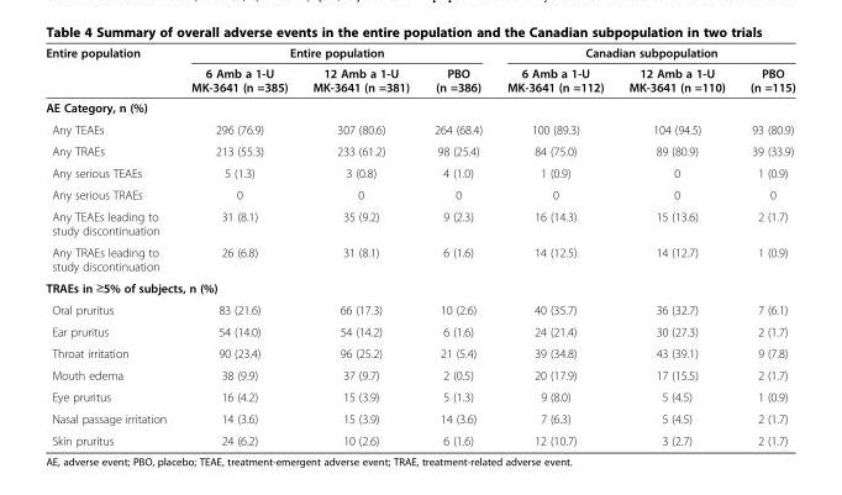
<table><thead><tr><td rowspan="2">Entire population</td><td colspan="3">Entire population</td><td colspan="3">Canadian subpopulation</td></tr><tr><td>6 Amb a 1-U MK-3641 (n =385)</td><td>12 Amb a 1-U MK-3641 (n =381)</td><td>PBO (n =386)</td><td>6 Amb a 1-U MK-3641 (n =112)</td><td>12 Amb a 1-U MK-3641 (n =110)</td><td>PBO (n =115)</td></tr></thead><tbody><tr><td colspan="7">AE Category, n (%)</td></tr><tr><td>Any TEAEs</td><td>296 (76.9)</td><td>307 (80.6)</td><td>264 (68.4)</td><td>100 (89.3)</td><td>104 (94.5)</td><td>93 (80.9)</td></tr><tr><td>Any TRAEs</td><td>213 (55.3)</td><td>233 (61.2)</td><td>98 (25.4)</td><td>84 (75.0)</td><td>89 (80.9)</td><td>39 (33.9)</td></tr><tr><td>Any serious TEAEs</td><td>5 (1.3)</td><td>3 (0.8)</td><td>4 (1.0)</td><td>1 (0.9)</td><td>0</td><td>1 (0.9)</td></tr><tr><td>Any serious TRAEs</td><td>0</td><td>0</td><td>0</td><td>0</td><td>0</td><td>0</td></tr><tr><td>Any TEAEs leading to study discontinuation</td><td>31 (8.1)</td><td>35 (9.2)</td><td>9 (2.3)</td><td>16 (14.3)</td><td>15 (13.6)</td><td>2 (1.7)</td></tr><tr><td>Any TRAEs leading to study discontinuation</td><td>26 (6.8)</td><td>31 (8.1)</td><td>6 (1.6)</td><td>14 (12.5)</td><td>14 (12.7)</td><td>1 (0.9)</td></tr><tr><td colspan="7">TRAEs in ≥5% of subjects, n (%)</td></tr><tr><td>Oral pruritus</td><td>83 (21.6)</td><td>66 (17.3)</td><td>10 (2.6)</td><td>40 (35.7)</td><td>36 (32.7)</td><td>7 (6.1)</td></tr><tr><td>Ear pruritus</td><td>54 (14.0)</td><td>54 (14.2)</td><td>6 (1.6)</td><td>24 (21.4)</td><td>30 (27.3)</td><td>2 (1.7)</td></tr><tr><td>Throat irritation</td><td>90 (23.4)</td><td>96 (25.2)</td><td>21 (5.4)</td><td>39 (34.8)</td><td>43 (39.1)</td><td>9 (7.8)</td></tr><tr><td>Mouth edema</td><td>38 (9.9)</td><td>37 (9.7)</td><td>2 (0.5)</td><td>20 (17.9)</td><td>17 (15.5)</td><td>2 (1.7)</td></tr><tr><td>Eye pruritus</td><td>16 (4.2)</td><td>15 (3.9)</td><td>5 (1.3)</td><td>9 (8.0)</td><td>5 (4.5)</td><td>1 (0.9)</td></tr><tr><td>Nasal passage irritation</td><td>14 (3.6)</td><td>15 (3.9)</td><td>14 (3.6)</td><td>7 (6.3)</td><td>5 (4.5)</td><td>2 (1.7)</td></tr><tr><td>Skin pruritus</td><td>24 (6.2)</td><td>10 (2.6)</td><td>6 (1.6)</td><td>12 (10.7)</td><td>3 (2.7)</td><td>2 (1.7)</td></tr></tbody></table>